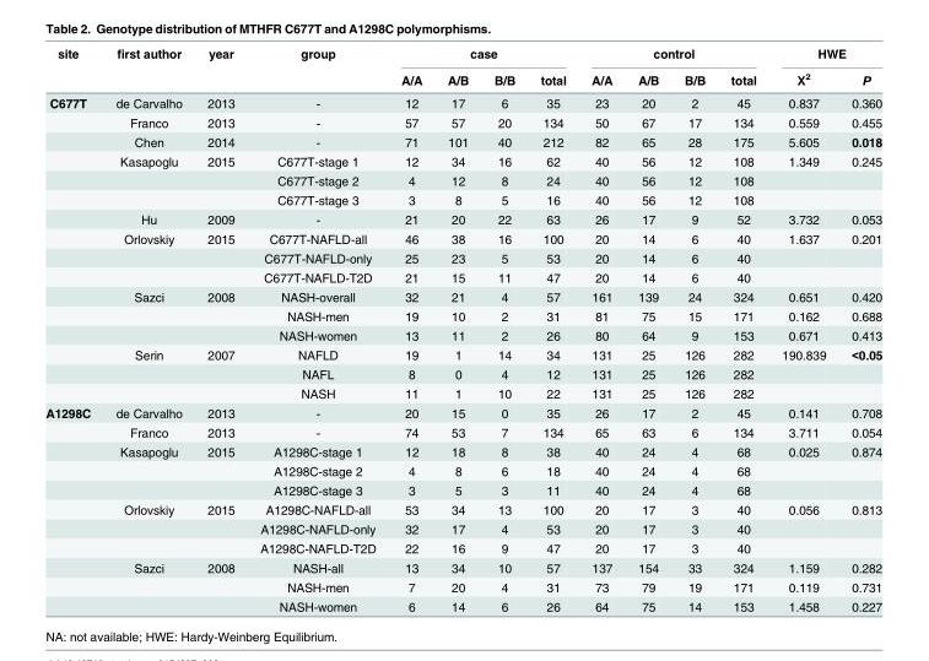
<table><thead><tr><td rowspan="2">site</td><td rowspan="2">first author</td><td rowspan="2">year</td><td rowspan="2">group</td><td colspan="4">case</td><td colspan="4">control</td><td colspan="2">HWE</td></tr><tr><td>A/A</td><td>A/B</td><td>B/B</td><td>total</td><td>A/A</td><td>A/B</td><td>B/B</td><td>total</td><td>Χ<sup>2</sup></td><td>P</td></tr></thead><tbody><tr><td rowspan="16">C677T</td><td>de Carvalho</td><td>2013</td><td>-</td><td>12</td><td>17</td><td>6</td><td>35</td><td>23</td><td>20</td><td>2</td><td>45</td><td>0.837</td><td>0.360</td></tr><tr><td>Franco</td><td>2013</td><td>-</td><td>57</td><td>57</td><td>20</td><td>134</td><td>50</td><td>67</td><td>17</td><td>134</td><td>0.559</td><td>0.455</td></tr><tr><td>Chen</td><td>2014</td><td>-</td><td>71</td><td>101</td><td>40</td><td>212</td><td>82</td><td>65</td><td>28</td><td>175</td><td>5.605</td><td>0.018</td></tr><tr><td>Kasapoglu</td><td>2015</td><td>C677T-stage 1</td><td>12</td><td>34</td><td>16</td><td>62</td><td>40</td><td>56</td><td>12</td><td>108</td><td>1.349</td><td>0.245</td></tr><tr><td></td><td></td><td>C677T-stage 2</td><td>4</td><td>12</td><td>8</td><td>24</td><td>40</td><td>56</td><td>12</td><td>108</td><td></td><td></td></tr><tr><td></td><td></td><td>C677T-stage 3</td><td>3</td><td>8</td><td>5</td><td>16</td><td>40</td><td>56</td><td>12</td><td>108</td><td></td><td></td></tr><tr><td>Hu</td><td>2009</td><td>-</td><td>21</td><td>20</td><td>22</td><td>63</td><td>26</td><td>17</td><td>9</td><td>52</td><td>3.732</td><td>0.053</td></tr><tr><td>Orlovskiy</td><td>2015</td><td>C677T-NAFLD-all</td><td>46</td><td>38</td><td>16</td><td>100</td><td>20</td><td>14</td><td>6</td><td>40</td><td>1.637</td><td>0.201</td></tr><tr><td></td><td></td><td>C677T-NAFLD-only</td><td>25</td><td>23</td><td>5</td><td>53</td><td>20</td><td>14</td><td>6</td><td>40</td><td></td><td></td></tr><tr><td></td><td></td><td>C677T-NAFLD-T2D</td><td>21</td><td>15</td><td>11</td><td>47</td><td>20</td><td>14</td><td>6</td><td>40</td><td></td><td></td></tr><tr><td>Sazci</td><td>2008</td><td>NASH-overall</td><td>32</td><td>21</td><td>4</td><td>57</td><td>161</td><td>139</td><td>24</td><td>324</td><td>0.651</td><td>0.420</td></tr><tr><td></td><td></td><td>NASH-men</td><td>19</td><td>10</td><td>2</td><td>31</td><td>81</td><td>75</td><td>15</td><td>171</td><td>0.162</td><td>0.688</td></tr><tr><td></td><td></td><td>NASH-women</td><td>13</td><td>11</td><td>2</td><td>26</td><td>80</td><td>64</td><td>9</td><td>153</td><td>0.671</td><td>0.413</td></tr><tr><td>Serin</td><td>2007</td><td>NAFLD</td><td>19</td><td>1</td><td>14</td><td>34</td><td>131</td><td>25</td><td>126</td><td>282</td><td>190.839</td><td>&lt;0.05</td></tr><tr><td></td><td></td><td>NAFL</td><td>8</td><td>0</td><td>4</td><td>12</td><td>131</td><td>25</td><td>126</td><td>282</td><td></td><td></td></tr><tr><td></td><td></td><td>NASH</td><td>11</td><td>1</td><td>10</td><td>22</td><td>131</td><td>25</td><td>126</td><td>282</td><td></td><td></td></tr><tr><td rowspan="11">A1298C</td><td>de Carvalho</td><td>2013</td><td>-</td><td>20</td><td>15</td><td>0</td><td>35</td><td>26</td><td>17</td><td>2</td><td>45</td><td>0.141</td><td>0.708</td></tr><tr><td>Franco</td><td>2013</td><td>-</td><td>74</td><td>53</td><td>7</td><td>134</td><td>65</td><td>63</td><td>6</td><td>134</td><td>3.711</td><td>0.054</td></tr><tr><td>Kasapoglu</td><td>2015</td><td>A1298C-stage 1</td><td>12</td><td>18</td><td>8</td><td>38</td><td>40</td><td>24</td><td>4</td><td>68</td><td>0.025</td><td>0.874</td></tr><tr><td></td><td></td><td>A1298C-stage 2</td><td>4</td><td>8</td><td>6</td><td>18</td><td>40</td><td>24</td><td>4</td><td>68</td><td></td><td></td></tr><tr><td></td><td></td><td>A1298C-stage 3</td><td>3</td><td>5</td><td>3</td><td>11</td><td>40</td><td>24</td><td>4</td><td>68</td><td></td><td></td></tr><tr><td>Orlovskiy</td><td>2015</td><td>A1298C-NAFLD-all</td><td>53</td><td>34</td><td>13</td><td>100</td><td>20</td><td>17</td><td>3</td><td>40</td><td>0.056</td><td>0.813</td></tr><tr><td></td><td></td><td>A1298C-NAFLD-only</td><td>32</td><td>17</td><td>4</td><td>53</td><td>20</td><td>17</td><td>3</td><td>40</td><td></td><td></td></tr><tr><td></td><td></td><td>A1298C-NAFLD-T2D</td><td>22</td><td>16</td><td>9</td><td>47</td><td>20</td><td>17</td><td>3</td><td>40</td><td></td><td></td></tr><tr><td>Sazci</td><td>2008</td><td>NASH-all</td><td>13</td><td>34</td><td>10</td><td>57</td><td>137</td><td>154</td><td>33</td><td>324</td><td>1.159</td><td>0.282</td></tr><tr><td></td><td></td><td>NASH-men</td><td>7</td><td>20</td><td>4</td><td>31</td><td>73</td><td>79</td><td>19</td><td>171</td><td>0.119</td><td>0.731</td></tr><tr><td></td><td></td><td>NASH-women</td><td>6</td><td>14</td><td>6</td><td>26</td><td>64</td><td>75</td><td>14</td><td>153</td><td>1.458</td><td>0.227</td></tr></tbody></table>